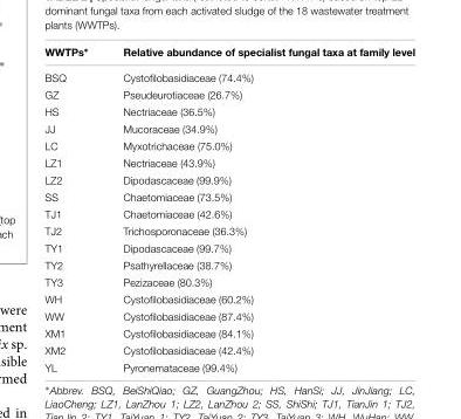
<table><thead><tr><td>WWTPs∗</td><td>Relative abundance of specialist fungal taxa at family level</td></tr></thead><tbody><tr><td>BSQ</td><td>Cystofilobasidiaceae (74.4%)</td></tr><tr><td>GZ</td><td>Pseudeurotiaceae (26.7%)</td></tr><tr><td>HS</td><td>Nectriaceae (36.5%)</td></tr><tr><td>JJ</td><td>Mucoraceae (34.9%)</td></tr><tr><td>LC</td><td>Myxotrichaceae (75.0%)</td></tr><tr><td>LZ1</td><td>Nectriaceae (43.9%)</td></tr><tr><td>LZ2</td><td>Dipodascaceae (99.9%)</td></tr><tr><td>SS</td><td>Chaetomiaceae (73.5%)</td></tr><tr><td>TJ1</td><td>Chaetomiaceae (42.6%)</td></tr><tr><td>TJ2</td><td>Trichosporonaceae (36.3%)</td></tr><tr><td>TY1</td><td>Dipodascaceae (99.7%)</td></tr><tr><td>TY2</td><td>Psathyrellaceae (38.7%)</td></tr><tr><td>TY3</td><td>Pezizaceae (80.3%)</td></tr><tr><td>WH</td><td>Cystofilobasidiaceae (60.2%)</td></tr><tr><td>WW</td><td>Cystofilobasidiaceae (87.4%)</td></tr><tr><td>XM1</td><td>Cystofilobasidiaceae (84.1%)</td></tr><tr><td>XM2</td><td>Cystofilobasidiaceae (42.4%)</td></tr><tr><td>YL</td><td>Pyronemataceae (99.4%)</td></tr></tbody></table>